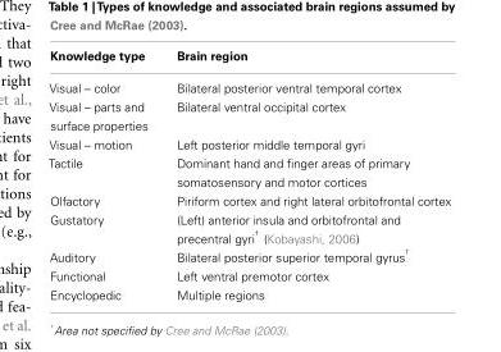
<table><thead><tr><td>Knowledge type</td><td>Brain region</td></tr></thead><tbody><tr><td>Visual – color</td><td>Bilateral posterior ventral temporal cortex</td></tr><tr><td>Visual – parts and surface properties</td><td>Bilateral ventral occipital cortex</td></tr><tr><td>Visual – motion</td><td>Left posterior middle temporal gyri</td></tr><tr><td>Tactile</td><td>Dominant hand and finger areas of primary somatosensory and motor cortices</td></tr><tr><td>Olfactory</td><td>Piriform cortex and right lateral orbitofrontal cortex</td></tr><tr><td>Gustatory</td><td>(Left) anterior insula and orbitofrontal and precentral gyri <sup>†</sup> (Kobayashi, 2006)</td></tr><tr><td>Auditory</td><td>Bilateral posterior superior temporal gyrus <sup>†</sup></td></tr><tr><td>Functional</td><td>Left ventral premotor cortex</td></tr><tr><td>Encyclopedic</td><td>Multiple regions</td></tr></tbody></table>